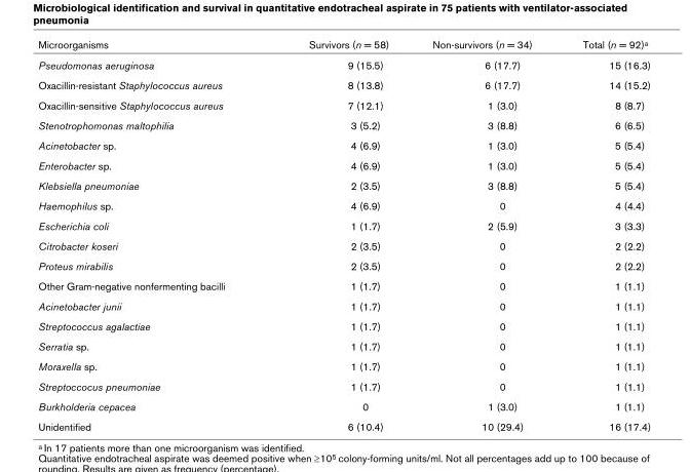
<table><thead><tr><td>Microorganisms</td><td>Survivors (n = 58)</td><td>Non-survivors (n = 34)</td><td>Total (n = 92)a</td></tr></thead><tbody><tr><td>Pseudomonas aeruginosa</td><td>9 (15.5)</td><td>6 (17.7)</td><td>15 (16.3)</td></tr><tr><td>Oxacillin-resistant Staphylococcus aureus</td><td>8 (13.8)</td><td>6 (17.7)</td><td>14 (15.2)</td></tr><tr><td>Oxacillin-sensitive Staphylococcus aureus</td><td>7 (12.1)</td><td>1 (3.0)</td><td>8 (8.7)</td></tr><tr><td>Stenotrophomonas maltophilia</td><td>3 (5.2)</td><td>3 (8.8)</td><td>6 (6.5)</td></tr><tr><td>Acinetobacter sp.</td><td>4 (6.9)</td><td>1 (3.0)</td><td>5 (5.4)</td></tr><tr><td>Enterobacter sp.</td><td>4 (6.9)</td><td>1 (3.0)</td><td>5 (5.4)</td></tr><tr><td>Klebsiella pneumoniae</td><td>2 (3.5)</td><td>3 (8.8)</td><td>5 (5.4)</td></tr><tr><td>Haemophilus sp.</td><td>4 (6.9)</td><td>0</td><td>4 (4.4)</td></tr><tr><td>Escherichia coli</td><td>1 (1.7)</td><td>2 (5.9)</td><td>3 (3.3)</td></tr><tr><td>Citrobacter koseri</td><td>2 (3.5)</td><td>0</td><td>2 (2.2)</td></tr><tr><td>Proteus mirabilis</td><td>2 (3.5)</td><td>0</td><td>2 (2.2)</td></tr><tr><td>Other Gram-negative nonfermenting bacilli</td><td>1 (1.7)</td><td>0</td><td>1 (1.1)</td></tr><tr><td>Acinetobacter junii</td><td>1 (1.7)</td><td>0</td><td>1 (1.1)</td></tr><tr><td>Streptococcus agalactiae</td><td>1 (1.7)</td><td>0</td><td>1 (1.1)</td></tr><tr><td>Serratia sp.</td><td>1 (1.7)</td><td>0</td><td>1 (1.1)</td></tr><tr><td>Moraxella sp.</td><td>1 (1.7)</td><td>0</td><td>1 (1.1)</td></tr><tr><td>Streptoccocus pneumoniae</td><td>1 (1.7)</td><td>0</td><td>1 (1.1)</td></tr><tr><td>Burkholderia cepacea</td><td>0</td><td>1 (3.0)</td><td>1 (1.1)</td></tr><tr><td>Unidentified</td><td>6 (10.4)</td><td>10 (29.4)</td><td>16 (17.4)</td></tr></tbody></table>